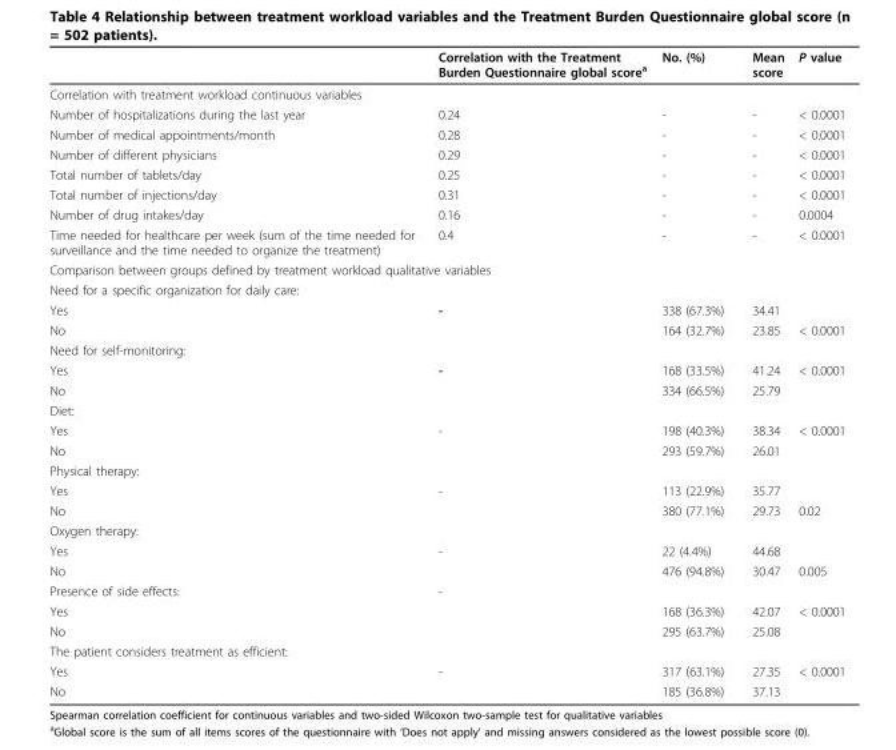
<table><thead><tr><td></td><td>Correlation with the Treatment Burden Questionnaire global score<sup>a</sup></td><td>No. (%)</td><td>Mean score</td><td>P value</td></tr></thead><tbody><tr><td colspan="5">Correlation with treatment workload continuous variables</td></tr><tr><td>Number of hospitalizations during the last year</td><td>0.24</td><td>-</td><td>-</td><td>&lt; 0.0001</td></tr><tr><td>Number of medical appointments/month</td><td>0.28</td><td>-</td><td>-</td><td>&lt; 0.0001</td></tr><tr><td>Number of different physicians</td><td>0.29</td><td>-</td><td>-</td><td>&lt; 0.0001</td></tr><tr><td>Total number of tablets/day</td><td>0.25</td><td>-</td><td>-</td><td>&lt; 0.0001</td></tr><tr><td>Total number of injections/day</td><td>0.31</td><td>-</td><td>-</td><td>&lt; 0.0001</td></tr><tr><td>Number of drug intakes/day</td><td>0.16</td><td>-</td><td>-</td><td>0.0004</td></tr><tr><td>Time needed for healthcare per week (sum of the time needed for surveillance and the time needed to organize the treatment)</td><td>0.4</td><td>-</td><td>-</td><td>&lt; 0.0001</td></tr><tr><td colspan="5">Comparison between groups defined by treatment workload qualitative variables</td></tr><tr><td colspan="5">Need for a specific organization for daily care:</td></tr><tr><td>Yes</td><td>-</td><td>338 (67.3%)</td><td>34.41</td><td></td></tr><tr><td>No</td><td></td><td>164 (32.7%)</td><td>23.85</td><td>&lt; 0.0001</td></tr><tr><td colspan="5">Need for self-monitoring:</td></tr><tr><td>Yes</td><td>-</td><td>168 (33.5%)</td><td>41.24</td><td>&lt; 0.0001</td></tr><tr><td>No</td><td></td><td>334 (66.5%)</td><td>25.79</td><td></td></tr><tr><td colspan="5">Diet:</td></tr><tr><td>Yes</td><td>-</td><td>198 (40.3%)</td><td>38.34</td><td>&lt; 0.0001</td></tr><tr><td>No</td><td></td><td>293 (59.7%)</td><td>26.01</td><td></td></tr><tr><td colspan="5">Physical therapy:</td></tr><tr><td>Yes</td><td>-</td><td>113 (22.9%)</td><td>35.77</td><td></td></tr><tr><td>No</td><td></td><td>380 (77.1%)</td><td>29.73</td><td>0.02</td></tr><tr><td colspan="5">Oxygen therapy:</td></tr><tr><td>Yes</td><td>-</td><td>22 (4.4%)</td><td>44.68</td><td></td></tr><tr><td>No</td><td></td><td>476 (94.8%)</td><td>30.47</td><td>0.005</td></tr><tr><td>Presence of side effects:</td><td>-</td><td></td><td></td><td></td></tr><tr><td>Yes</td><td></td><td>168 (36.3%)</td><td>42.07</td><td>&lt; 0.0001</td></tr><tr><td>No</td><td></td><td>295 (63.7%)</td><td>25.08</td><td></td></tr><tr><td colspan="5">The patient considers treatment as efficient:</td></tr><tr><td>Yes</td><td>-</td><td>317 (63.1%)</td><td>27.35</td><td>&lt; 0.0001</td></tr><tr><td>No</td><td></td><td>185 (36.8%)</td><td>37.13</td><td></td></tr></tbody></table>